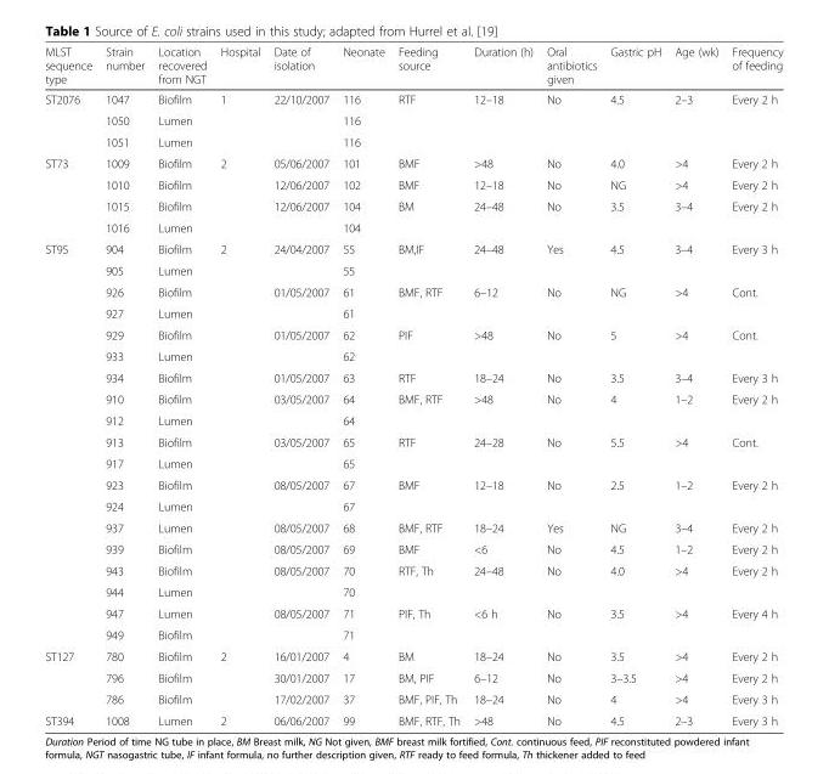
<table><thead><tr><td>MLST sequence type</td><td>Strain number</td><td>Location recovered from NGT</td><td>Hospital</td><td>Date of isolation</td><td>Neonate</td><td>Feeding source</td><td>Duration (h)</td><td>Oral antibiotics given</td><td>Gastric pH</td><td>Age (wk)</td><td>Frequency of feeding</td></tr></thead><tbody><tr><td rowspan="3">ST2076</td><td>1047</td><td>Biofilm</td><td>1</td><td>22/10/2007</td><td>116</td><td>RTF</td><td>12–18</td><td>No</td><td>4.5</td><td>2–3</td><td>Every 2 h</td></tr><tr><td>1050</td><td>Lumen</td><td></td><td></td><td>116</td><td></td><td></td><td></td><td></td><td></td><td></td></tr><tr><td>1051</td><td>Lumen</td><td></td><td></td><td>116</td><td></td><td></td><td></td><td></td><td></td><td></td></tr><tr><td rowspan="4">ST73</td><td>1009</td><td>Biofilm</td><td>2</td><td>05/06/2007</td><td>101</td><td>BMF</td><td>&gt;48</td><td>No</td><td>4.0</td><td>&gt;4</td><td>Every 2 h</td></tr><tr><td>1010</td><td>Biofilm</td><td></td><td>12/06/2007</td><td>102</td><td>BMF</td><td>12–18</td><td>No</td><td>NG</td><td>&gt;4</td><td>Every 2 h</td></tr><tr><td>1015</td><td>Biofilm</td><td></td><td>12/06/2007</td><td>104</td><td>BM</td><td>24–48</td><td>No</td><td>3.5</td><td>3–4</td><td>Every 2 h</td></tr><tr><td>1016</td><td>Lumen</td><td></td><td></td><td>104</td><td></td><td></td><td></td><td></td><td></td><td></td></tr><tr><td rowspan="19">ST95</td><td>904</td><td>Biofilm</td><td>2</td><td>24/04/2007</td><td>55</td><td>BM,IF</td><td>24–48</td><td>Yes</td><td>4.5</td><td>3–4</td><td>Every 3 h</td></tr><tr><td>905</td><td>Lumen</td><td></td><td></td><td>55</td><td></td><td></td><td></td><td></td><td></td><td></td></tr><tr><td>926</td><td>Biofilm</td><td></td><td>01/05/2007</td><td>61</td><td>BMF, RTF</td><td>6–12</td><td>No</td><td>NG</td><td>&gt;4</td><td>Cont.</td></tr><tr><td>927</td><td>Lumen</td><td></td><td></td><td>61</td><td></td><td></td><td></td><td></td><td></td><td></td></tr><tr><td>929</td><td>Biofilm</td><td></td><td>01/05/2007</td><td>62</td><td>PIF</td><td>&gt;48</td><td>No</td><td>5</td><td>&gt;4</td><td>Cont.</td></tr><tr><td>933</td><td>Lumen</td><td></td><td></td><td>62</td><td></td><td></td><td></td><td></td><td></td><td></td></tr><tr><td>934</td><td>Biofilm</td><td></td><td>01/05/2007</td><td>63</td><td>RTF</td><td>18–24</td><td>No</td><td>3.5</td><td>3–4</td><td>Every 3 h</td></tr><tr><td>910</td><td>Biofilm</td><td></td><td>03/05/2007</td><td>64</td><td>BMF, RTF</td><td>&gt;48</td><td>No</td><td>4</td><td>1–2</td><td>Every 2 h</td></tr><tr><td>912</td><td>Lumen</td><td></td><td></td><td>64</td><td></td><td></td><td></td><td></td><td></td><td></td></tr><tr><td>913</td><td>Biofilm</td><td></td><td>03/05/2007</td><td>65</td><td>RTF</td><td>24–28</td><td>No</td><td>5.5</td><td>&gt;4</td><td>Cont.</td></tr><tr><td>917</td><td>Lumen</td><td></td><td></td><td>65</td><td></td><td></td><td></td><td></td><td></td><td></td></tr><tr><td>923</td><td>Biofilm</td><td></td><td>08/05/2007</td><td>67</td><td>BMF</td><td>12–18</td><td>No</td><td>2.5</td><td>1–2</td><td>Every 2 h</td></tr><tr><td>924</td><td>Lumen</td><td></td><td></td><td>67</td><td></td><td></td><td></td><td></td><td></td><td></td></tr><tr><td>937</td><td>Lumen</td><td></td><td>08/05/2007</td><td>68</td><td>BMF, RTF</td><td>18–24</td><td>Yes</td><td>NG</td><td>3–4</td><td>Every 2 h</td></tr><tr><td>939</td><td>Biofilm</td><td></td><td>08/05/2007</td><td>69</td><td>BMF</td><td>&lt;6</td><td>No</td><td>4.5</td><td>1–2</td><td>Every 2 h</td></tr><tr><td>943</td><td>Biofilm</td><td></td><td>08/05/2007</td><td>70</td><td>RTF, Th</td><td>24–48</td><td>No</td><td>4.0</td><td>&gt;4</td><td>Every 2 h</td></tr><tr><td>944</td><td>Lumen</td><td></td><td></td><td>70</td><td></td><td></td><td></td><td></td><td></td><td></td></tr><tr><td>947</td><td>Lumen</td><td></td><td>08/05/2007</td><td>71</td><td>PIF, Th</td><td>&lt;6 h</td><td>No</td><td>3.5</td><td>&gt;4</td><td>Every 4 h</td></tr><tr><td>949</td><td>Biofilm</td><td></td><td></td><td>71</td><td></td><td></td><td></td><td></td><td></td><td></td></tr><tr><td rowspan="3">ST127</td><td>780</td><td>Biofilm</td><td>2</td><td>16/01/2007</td><td>4</td><td>BM</td><td>18–24</td><td>No</td><td>3.5</td><td>&gt;4</td><td>Every 2 h</td></tr><tr><td>796</td><td>Biofilm</td><td></td><td>30/01/2007</td><td>17</td><td>BM, PIF</td><td>6–12</td><td>No</td><td>3–3.5</td><td>&gt;4</td><td>Every 2 h</td></tr><tr><td>786</td><td>Biofilm</td><td></td><td>17/02/2007</td><td>37</td><td>BMF, PIF, Th</td><td>18–24</td><td>No</td><td>4</td><td>&gt;4</td><td>Every 3 h</td></tr><tr><td>ST394</td><td>1008</td><td>Lumen</td><td>2</td><td>06/06/2007</td><td>99</td><td>BMF, RTF, Th</td><td>&gt;48</td><td>No</td><td>4.5</td><td>2–3</td><td>Every 3 h</td></tr></tbody></table>